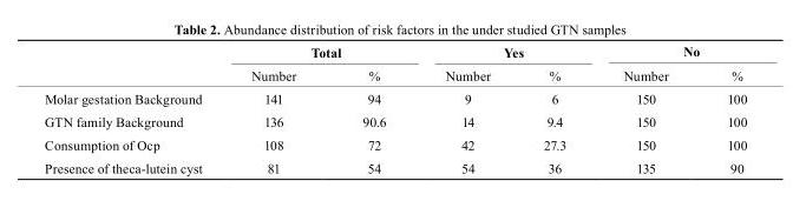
<table><thead><tr><td rowspan="2"></td><td colspan="2">total</td><td colspan="2">Yes</td><td colspan="2">No</td></tr><tr><td>Number</td><td>%</td><td>Number</td><td>%</td><td>Number</td><td>%</td></tr></thead><tbody><tr><td>Molar gestation Background</td><td>141</td><td>94</td><td>9</td><td>6</td><td>150</td><td>100</td></tr><tr><td>GTN family Background</td><td>136</td><td>90.6</td><td>14</td><td>9.4</td><td>150</td><td>100</td></tr><tr><td>Consumption of Ocp</td><td>108</td><td>72</td><td>42</td><td>27.3</td><td>150</td><td>100</td></tr><tr><td>Presence of theca-lutein cyst</td><td>81</td><td>54</td><td>54</td><td>36</td><td>135</td><td>90</td></tr></tbody></table>